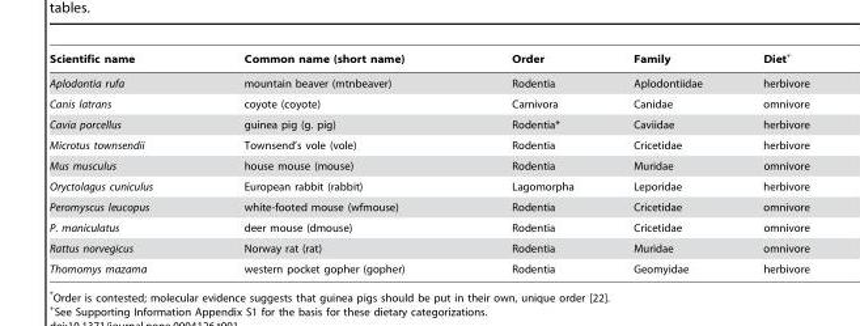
<table><thead><tr><td>Scientific name</td><td>Common name (short name)</td><td>Order</td><td>Family</td><td>Diet+</td></tr></thead><tbody><tr><td>Aplodontia rufa</td><td>mountain beaver (mtnbeaver)</td><td>Rodentia</td><td>Aplodontiidae</td><td>herbivore</td></tr><tr><td>Canis latrans</td><td>coyote (coyote)</td><td>Carnivora</td><td>Canidae</td><td>omnivore</td></tr><tr><td>Cavia porcellus</td><td>guinea pig (g. pig)</td><td>Rodentia*</td><td>Caviidae</td><td>herbivore</td></tr><tr><td>Microtus townsendii</td><td>Townsend’s vole (vole)</td><td>Rodentia</td><td>Cricetidae</td><td>herbivore</td></tr><tr><td>Mus musculus</td><td>house mouse (mouse)</td><td>Rodentia</td><td>Muridae</td><td>omnivore</td></tr><tr><td>Oryctolagus cuniculus</td><td>European rabbit (rabbit)</td><td>Lagomorpha</td><td>Leporidae</td><td>herbivore</td></tr><tr><td>Peromyscus leucopus</td><td>white-footed mouse (wfmouse)</td><td>Rodentia</td><td>Cricetidae</td><td>omnivore</td></tr><tr><td>P. maniculatus</td><td>deer mouse (dmouse)</td><td>Rodentia</td><td>Cricetidae</td><td>omnivore</td></tr><tr><td>Rattus norvegicus</td><td>Norway rat (rat)</td><td>Rodentia</td><td>Muridae</td><td>omnivore</td></tr><tr><td>Thomomys mazama</td><td>western pocket gopher (gopher)</td><td>Rodentia</td><td>Geomyidae</td><td>herbivore</td></tr></tbody></table>